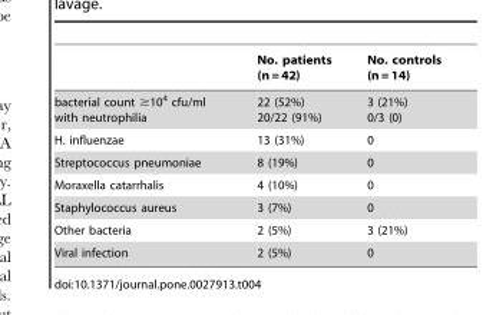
<table><thead><tr><td></td><td>No. patients (n = 42)</td><td>No. controls (n = 14)</td></tr></thead><tbody><tr><td>bacterial count ≥10<sup>4</sup> cfu/ml with neutrophilia</td><td>22 (52%) 20/22 (91%)</td><td>3 (21%) 0/3 (0)</td></tr><tr><td>H. influenzae</td><td>13 (31%)</td><td>0</td></tr><tr><td>Streptococcus pneumoniae</td><td>8 (19%)</td><td>0</td></tr><tr><td>Moraxella catarrhalis</td><td>4 (10%)</td><td>0</td></tr><tr><td>Staphylococcus aureus</td><td>3 (7%)</td><td>0</td></tr><tr><td>Other bacteria</td><td>2 (5%)</td><td>3 (21%)</td></tr><tr><td>Viral infection</td><td>2 (5%)</td><td>0</td></tr></tbody></table>